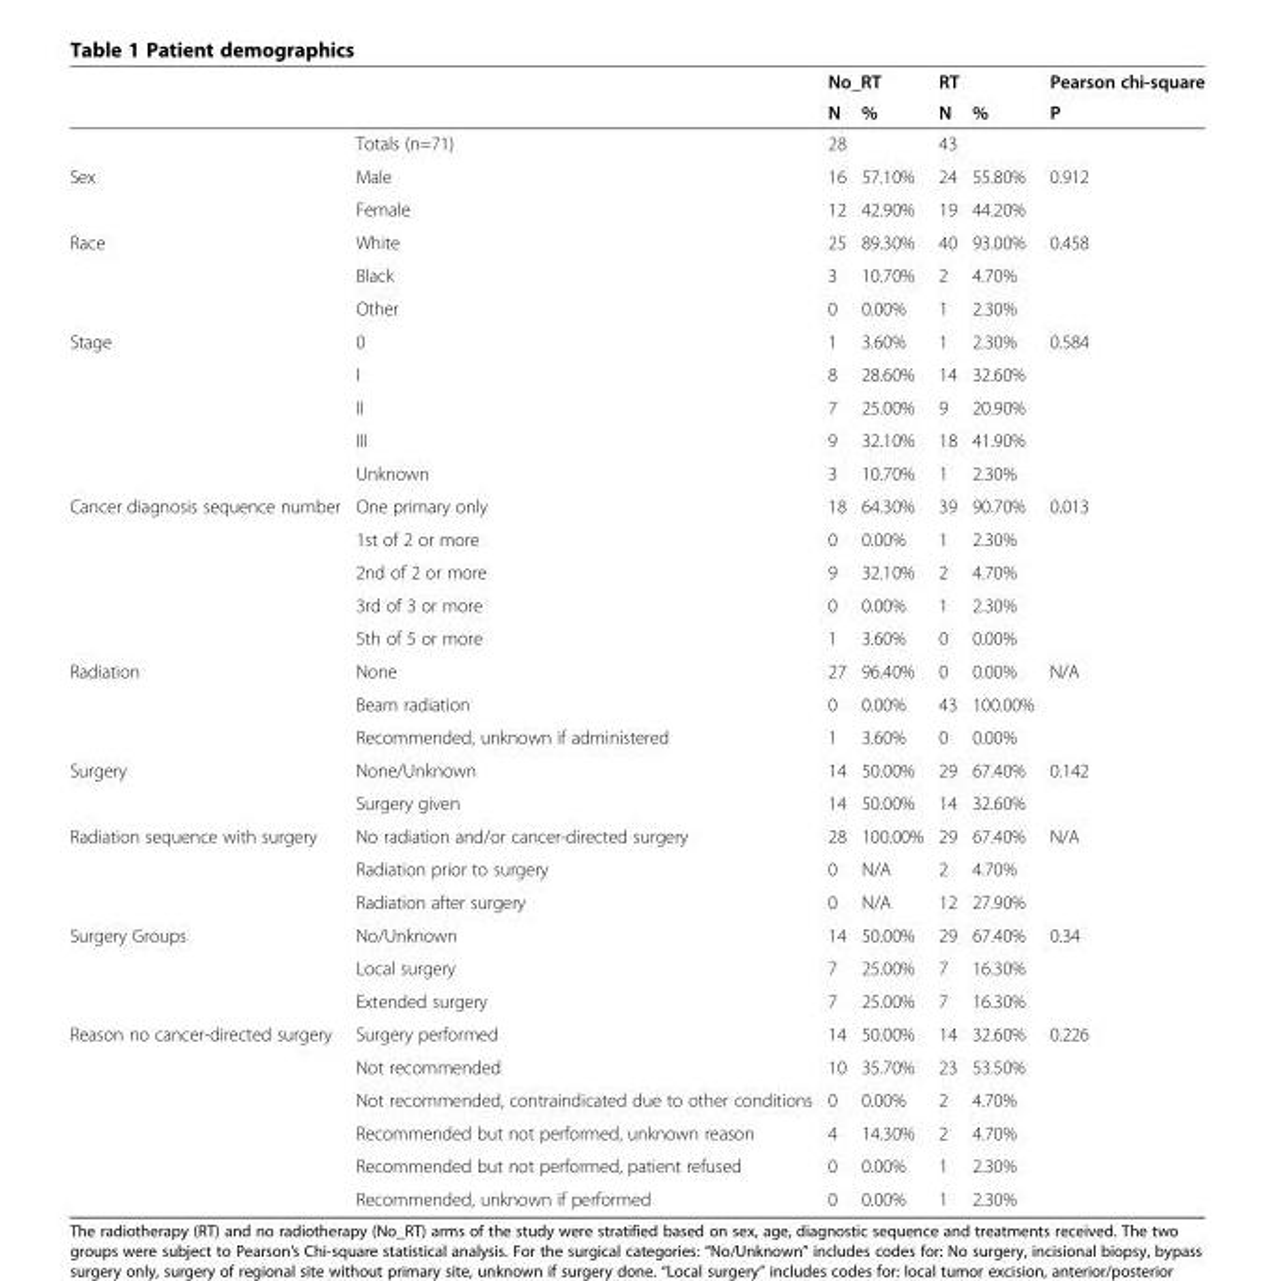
<table><thead><tr><td rowspan="2"></td><td rowspan="2"></td><td colspan="2">No_RT</td><td colspan="2">RT</td><td rowspan="2">Pearson chi-square P</td></tr><tr><td>N</td><td>%</td><td>N</td><td>%</td></tr></thead><tbody><tr><td></td><td>Totals (n=71)</td><td>28</td><td></td><td>43</td><td></td><td></td></tr><tr><td rowspan="2">Sex</td><td>Male</td><td>16</td><td>57.10%</td><td>24</td><td>55.80%</td><td>0.912</td></tr><tr><td>Female</td><td>12</td><td>42.90%</td><td>19</td><td>44.20%</td><td></td></tr><tr><td rowspan="3">Race</td><td>White</td><td>25</td><td>89.30%</td><td>40</td><td>93.00%</td><td>0.458</td></tr><tr><td>Black</td><td>3</td><td>10.70%</td><td>2</td><td>4.70%</td><td></td></tr><tr><td>Other</td><td>0</td><td>0.00%</td><td>1</td><td>2.30%</td><td></td></tr><tr><td rowspan="5">Stage</td><td>0</td><td>1</td><td>3.60%</td><td>1</td><td>2.30%</td><td>0.584</td></tr><tr><td>I</td><td>8</td><td>28.60%</td><td>14</td><td>32.60%</td><td></td></tr><tr><td>II</td><td>7</td><td>25.00%</td><td>9</td><td>20.90%</td><td></td></tr><tr><td>III</td><td>9</td><td>32.10%</td><td>18</td><td>41.90%</td><td></td></tr><tr><td>Unknown</td><td>3</td><td>10.70%</td><td>1</td><td>2.30%</td><td></td></tr><tr><td rowspan="5">Cancer diagnosis sequence number</td><td>One primary only</td><td>18</td><td>64.30%</td><td>39</td><td>90.70%</td><td>0.013</td></tr><tr><td>1st of 2 or more</td><td>0</td><td>0.00%</td><td>1</td><td>2.30%</td><td></td></tr><tr><td>2nd of 2 or more</td><td>9</td><td>32.10%</td><td>2</td><td>4.70%</td><td></td></tr><tr><td>3rd of 3 or more</td><td>0</td><td>0.00%</td><td>1</td><td>2.30%</td><td></td></tr><tr><td>5th of 5 or more</td><td>1</td><td>3.60%</td><td>0</td><td>0.00%</td><td></td></tr><tr><td rowspan="3">Radiation</td><td>None</td><td>27</td><td>96.40%</td><td>0</td><td>0.00%</td><td>N/A</td></tr><tr><td>Beam radiation</td><td>0</td><td>0.00%</td><td>43</td><td>100.00%</td><td></td></tr><tr><td>Recommended, unknown if administered</td><td>1</td><td>3.60%</td><td>0</td><td>0.00%</td><td></td></tr><tr><td rowspan="2">Surgery</td><td>None/Unknown</td><td>14</td><td>50.00%</td><td>29</td><td>67.40%</td><td>0.142</td></tr><tr><td>Surgery given</td><td>14</td><td>50.00%</td><td>14</td><td>32.60%</td><td></td></tr><tr><td rowspan="3">Radiation sequence with surgery</td><td>No radiation and/or cancer-directed surgery</td><td>28</td><td>100.00%</td><td>29</td><td>67.40%</td><td>N/A</td></tr><tr><td>Radiation prior to surgery</td><td>0</td><td>N/A</td><td>2</td><td>4.70%</td><td></td></tr><tr><td>Radiation after surgery</td><td>0</td><td>N/A</td><td>12</td><td>27.90%</td><td></td></tr><tr><td rowspan="3">Surgery Groups</td><td>No/Unknown</td><td>14</td><td>50.00%</td><td>29</td><td>67.40%</td><td>0.34</td></tr><tr><td>Local surgery</td><td>7</td><td>25.00%</td><td>7</td><td>16.30%</td><td></td></tr><tr><td>Extended surgery</td><td>7</td><td>25.00%</td><td>7</td><td>16.30%</td><td></td></tr><tr><td rowspan="6">Reason no cancer-directed surgery</td><td>Surgery performed</td><td>14</td><td>50.00%</td><td>14</td><td>32.60%</td><td>0.226</td></tr><tr><td>Not recommended</td><td>10</td><td>35.70%</td><td>23</td><td>53.50%</td><td></td></tr><tr><td>Not recommended, contraindicated due to other conditions</td><td>0</td><td>0.00%</td><td>2</td><td>4.70%</td><td></td></tr><tr><td>Recommended but not performed, unknown reason</td><td>4</td><td>14.30%</td><td>2</td><td>4.70%</td><td></td></tr><tr><td>Recommended but not performed, patient refused</td><td>0</td><td>0.00%</td><td>1</td><td>2.30%</td><td></td></tr><tr><td>Recommended, unknown if performed</td><td>0</td><td>0.00%</td><td>1</td><td>2.30%</td><td></td></tr></tbody></table>